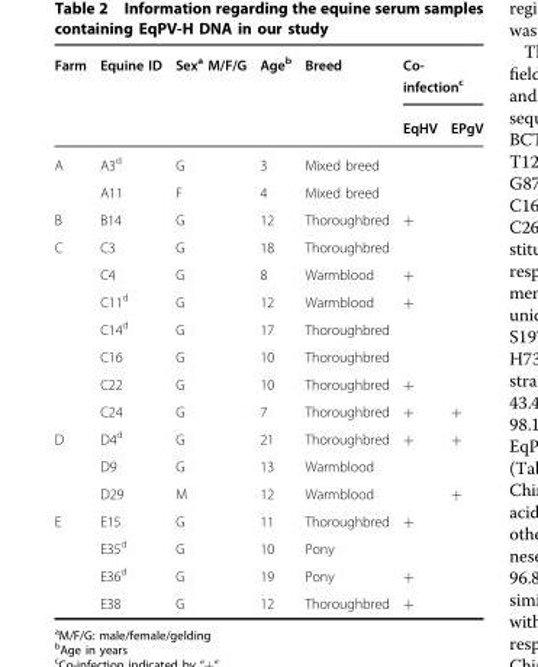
<table><thead><tr><td rowspan="2">Farm</td><td rowspan="2">Equine ID</td><td rowspan="2">Sex<sup>a</sup> M/F/G</td><td rowspan="2">Age<sup>b</sup></td><td rowspan="2">Breed</td><td colspan="2">Co- infection<sup>c</sup></td></tr><tr><td>EqHV</td><td>EPgV</td></tr></thead><tbody><tr><td rowspan="2">A</td><td>A3<sup>d</sup></td><td>G</td><td>3</td><td>Mixed breed</td><td></td><td></td></tr><tr><td>A11</td><td>F</td><td>4</td><td>Mixed breed</td><td></td><td></td></tr><tr><td>B</td><td>B14</td><td>G</td><td>12</td><td>Thoroughbred</td><td>+</td><td></td></tr><tr><td rowspan="7">C</td><td>C3</td><td>G</td><td>18</td><td>Thoroughbred</td><td></td><td></td></tr><tr><td>C4</td><td>G</td><td>8</td><td>Warmblood</td><td>+</td><td></td></tr><tr><td>C11<sup>d</sup></td><td>G</td><td>12</td><td>Warmblood</td><td>+</td><td></td></tr><tr><td>C14<sup>d</sup></td><td>G</td><td>17</td><td>Thoroughbred</td><td></td><td></td></tr><tr><td>C16</td><td>G</td><td>10</td><td>Thoroughbred</td><td></td><td></td></tr><tr><td>C22</td><td>G</td><td>10</td><td>Thoroughbred</td><td>+</td><td></td></tr><tr><td>C24</td><td>G</td><td>7</td><td>Thoroughbred</td><td>+</td><td>+</td></tr><tr><td rowspan="3">D</td><td>D4<sup>d</sup></td><td>G</td><td>21</td><td>Thoroughbred</td><td>+</td><td>+</td></tr><tr><td>D9</td><td>G</td><td>13</td><td>Warmblood</td><td></td><td></td></tr><tr><td>D29</td><td>M</td><td>12</td><td>Warmblood</td><td></td><td>+</td></tr><tr><td rowspan="4">E</td><td>E15</td><td>G</td><td>11</td><td>Thoroughbred</td><td>+</td><td></td></tr><tr><td>E35<sup>d</sup></td><td>G</td><td>10</td><td>Pony</td><td></td><td></td></tr><tr><td>E36<sup>d</sup></td><td>G</td><td>19</td><td>Pony</td><td>+</td><td></td></tr><tr><td>E38</td><td>G</td><td>12</td><td>Thoroughbred</td><td>+</td><td></td></tr></tbody></table>